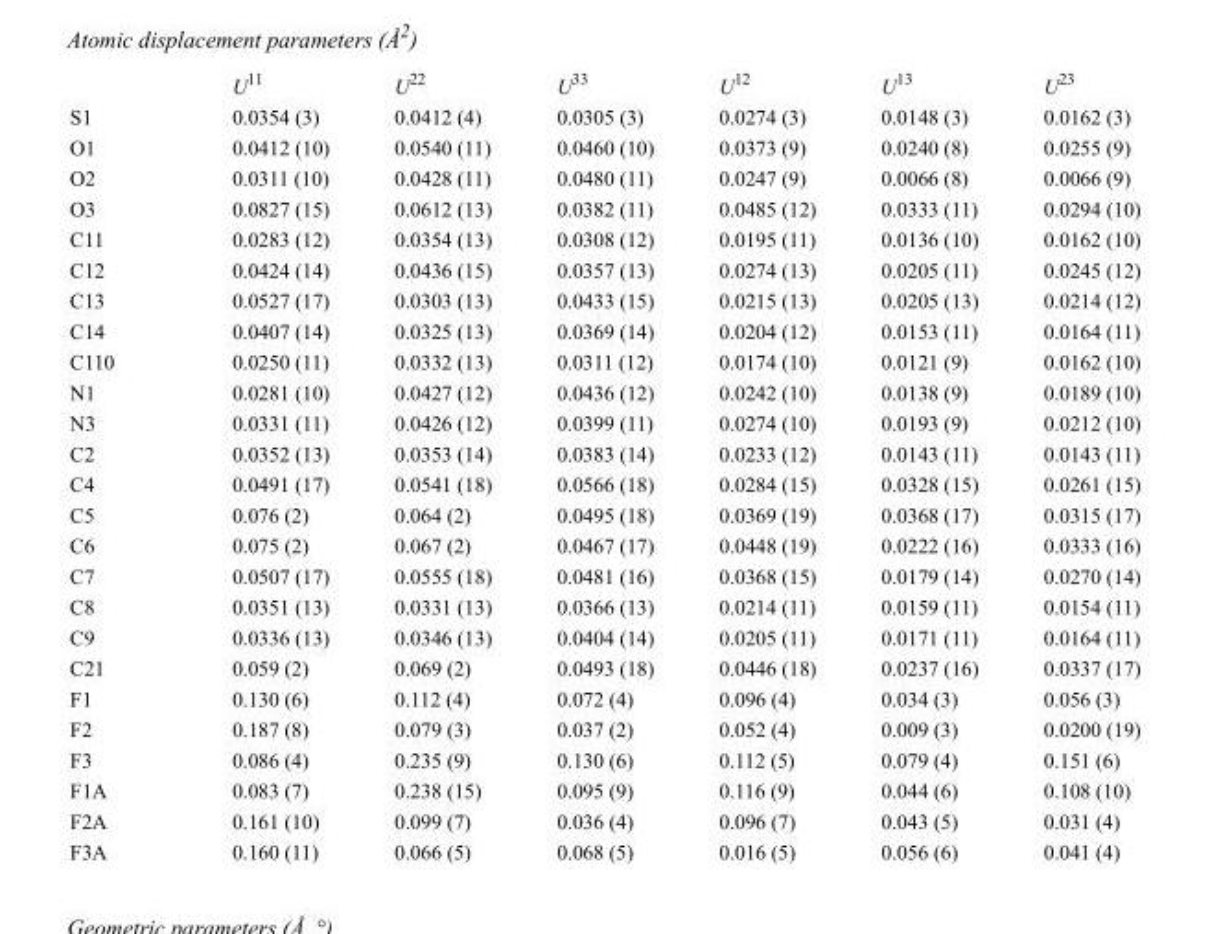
<table><thead><tr><td></td><td>U<sup>11</sup></td><td>U<sup>22</sup></td><td>U<sup>33</sup></td><td>U<sup>12</sup></td><td>U<sup>13</sup></td><td>U<sup>23</sup></td></tr></thead><tbody><tr><td>S1</td><td>0.0354 (3)</td><td>0.0412 (4)</td><td>0.0305 (3)</td><td>0.0274 (3)</td><td>0.0148 (3)</td><td>0.0162 (3)</td></tr><tr><td>O1</td><td>0.0412 (10)</td><td>0.0540 (11)</td><td>0.0460 (10)</td><td>0.0373 (9)</td><td>0.0240 (8)</td><td>0.0255 (9)</td></tr><tr><td>O2</td><td>0.0311 (10)</td><td>0.0428 (11)</td><td>0.0480 (11)</td><td>0.0247 (9)</td><td>0.0066 (8)</td><td>0.0066 (9)</td></tr><tr><td>O3</td><td>0.0827 (15)</td><td>0.0612 (13)</td><td>0.0382 (11)</td><td>0.0485 (12)</td><td>0.0333 (11)</td><td>0.0294 (10)</td></tr><tr><td>C11</td><td>0.0283 (12)</td><td>0.0354 (13)</td><td>0.0308 (12)</td><td>0.0195 (11)</td><td>0.0136 (10)</td><td>0.0162 (10)</td></tr><tr><td>C12</td><td>0.0424 (14)</td><td>0.0436 (15)</td><td>0.0357 (13)</td><td>0.0274 (13)</td><td>0.0205 (11)</td><td>0.0245 (12)</td></tr><tr><td>C13</td><td>0.0527 (17)</td><td>0.0303 (13)</td><td>0.0433 (15)</td><td>0.0215 (13)</td><td>0.0205 (13)</td><td>0.0214 (12)</td></tr><tr><td>C14</td><td>0.0407 (14)</td><td>0.0325 (13)</td><td>0.0369 (14)</td><td>0.0204 (12)</td><td>0.0153 (11)</td><td>0.0164 (11)</td></tr><tr><td>C110</td><td>0.0250 (11)</td><td>0.0332 (13)</td><td>0.0311 (12)</td><td>0.0174 (10)</td><td>0.0121 (9)</td><td>0.0162 (10)</td></tr><tr><td>N1</td><td>0.0281 (10)</td><td>0.0427 (12)</td><td>0.0436 (12)</td><td>0.0242 (10)</td><td>0.0138 (9)</td><td>0.0189 (10)</td></tr><tr><td>N3</td><td>0.0331 (11)</td><td>0.0426 (12)</td><td>0.0399 (11)</td><td>0.0274 (10)</td><td>0.0193 (9)</td><td>0.0212 (10)</td></tr><tr><td>C2</td><td>0.0352 (13)</td><td>0.0353 (14)</td><td>0.0383 (14)</td><td>0.0233 (12)</td><td>0.0143 (11)</td><td>0.0143 (11)</td></tr><tr><td>C4</td><td>0.0491 (17)</td><td>0.0541 (18)</td><td>0.0566 (18)</td><td>0.0284 (15)</td><td>0.0328 (15)</td><td>0.0261 (15)</td></tr><tr><td>C5</td><td>0.076 (2)</td><td>0.064 (2)</td><td>0.0495 (18)</td><td>0.0369 (19)</td><td>0.0368 (17)</td><td>0.0315 (17)</td></tr><tr><td>C6</td><td>0.075 (2)</td><td>0.067 (2)</td><td>0.0467 (17)</td><td>0.0448 (19)</td><td>0.0222 (16)</td><td>0.0333 (16)</td></tr><tr><td>C7</td><td>0.0507 (17)</td><td>0.0555 (18)</td><td>0.0481 (16)</td><td>0.0368 (15)</td><td>0.0179 (14)</td><td>0.0270 (14)</td></tr><tr><td>C8</td><td>0.0351 (13)</td><td>0.0331 (13)</td><td>0.0366 (13)</td><td>0.0214 (11)</td><td>0.0159 (11)</td><td>0.0154 (11)</td></tr><tr><td>C9</td><td>0.0336 (13)</td><td>0.0346 (13)</td><td>0.0404 (14)</td><td>0.0205 (11)</td><td>0.0171 (11)</td><td>0.0164 (11)</td></tr><tr><td>C21</td><td>0.059 (2)</td><td>0.069 (2)</td><td>0.0493 (18)</td><td>0.0446 (18)</td><td>0.0237 (16)</td><td>0.0337 (17)</td></tr><tr><td>F1</td><td>0.130 (6)</td><td>0.112 (4)</td><td>0.072 (4)</td><td>0.096 (4)</td><td>0.034 (3)</td><td>0.056 (3)</td></tr><tr><td>F2</td><td>0.187 (8)</td><td>0.079 (3)</td><td>0.037 (2)</td><td>0.052 (4)</td><td>0.009 (3)</td><td>0.0200 (19)</td></tr><tr><td>F3</td><td>0.086 (4)</td><td>0.235 (9)</td><td>0.130 (6)</td><td>0.112 (5)</td><td>0.079 (4)</td><td>0.151 (6)</td></tr><tr><td>F1A</td><td>0.083 (7)</td><td>0.238 (15)</td><td>0.095 (9)</td><td>0.116 (9)</td><td>0.044 (6)</td><td>0.108 (10)</td></tr><tr><td>F2A</td><td>0.161 (10)</td><td>0.099 (7)</td><td>0.036 (4)</td><td>0.096 (7)</td><td>0.043 (5)</td><td>0.031 (4)</td></tr><tr><td>F3A</td><td>0.160 (11)</td><td>0.066 (5)</td><td>0.068 (5)</td><td>0.016 (5)</td><td>0.056 (6)</td><td>0.041 (4)</td></tr></tbody></table>